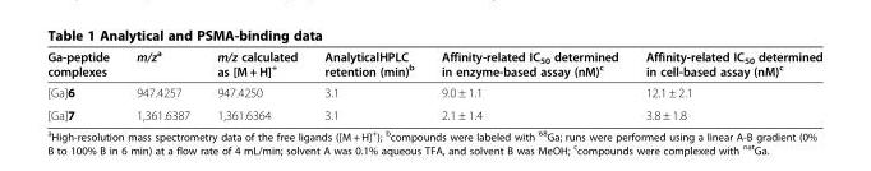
<table><thead><tr><td>Ga-peptide complexes</td><td>m/z<sup>a</sup></td><td>m/z calculated as [M + H]<sup>+</sup></td><td>AnalyticalHPLC retention (min)<sup>b</sup></td><td>Affinity-related IC<sub>50</sub> determined in enzyme-based assay (nM)<sup>c</sup></td><td>Affinity-related IC<sub>50</sub> determined in cell-based assay (nM)<sup>c</sup></td></tr></thead><tbody><tr><td>[Ga]6</td><td>947.4257</td><td>947.4250</td><td>3.1</td><td>9.0 ± 1.1</td><td>12.1 ± 2.1</td></tr><tr><td>[Ga]7</td><td>1,361.6387</td><td>1,361.6364</td><td>3.1</td><td>2.1 ± 1.4</td><td>3.8 ± 1.8</td></tr></tbody></table>